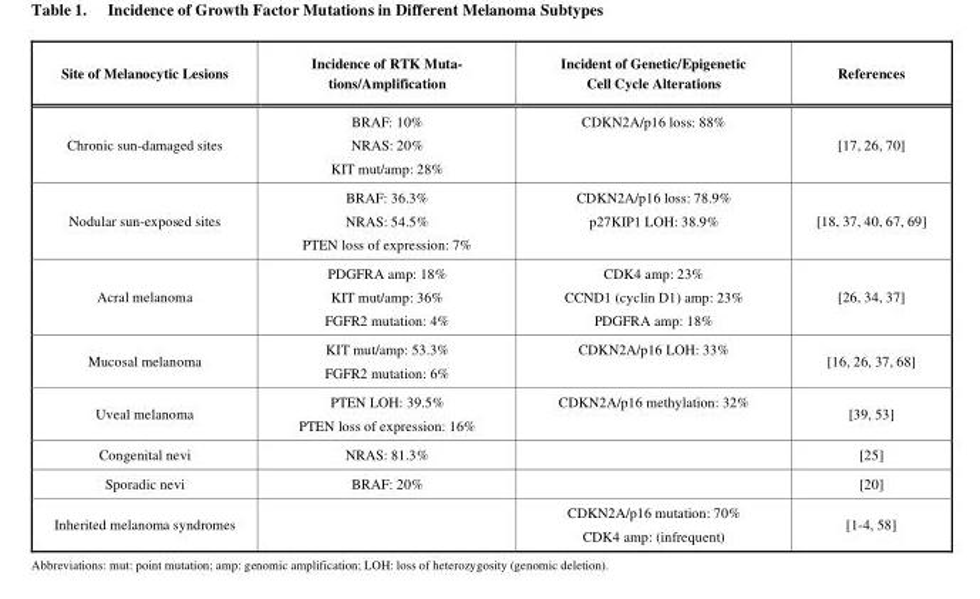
<table><thead><tr><td>Site of Melanocytic Lesions</td><td>Incidence of RTK Muta- tions/Amplification</td><td>Incident of Genetic/Epigenetic Cell Cycle Alterations</td><td>References</td></tr></thead><tbody><tr><td>Chronic sun-damaged sites</td><td>BRAF: 10% NRAS: 20% KIT mut/amp: 28%</td><td>CDKN2A/p16 loss: 88%</td><td>[17, 26, 70]</td></tr><tr><td>Nodular sun-exposed sites</td><td>BRAF: 36.3% NRAS: 54.5% PTEN loss of expression: 7%</td><td>CDKN2A/p16 loss: 78.9% p27KIP1 LOH: 38.9%</td><td>[18, 37, 40, 67, 69]</td></tr><tr><td>Acral melanoma</td><td>PDGFRA amp: 18% KIT mut/amp: 36% FGFR2 mutation: 4%</td><td>CDK4 amp: 23% CCND1 (cyclin D1) amp: 23% PDGFRA amp: 18%</td><td>[26, 34, 37]</td></tr><tr><td>Mucosal melanoma</td><td>KIT mut/amp: 53.3% FGFR2 mutation: 6%</td><td>CDKN2A/p16 LOH: 33%</td><td>[16, 26, 37, 68]</td></tr><tr><td>Uveal melanoma</td><td>PTEN LOH: 39.5% PTEN loss of expression: 16%</td><td>CDKN2A/p16 methylation: 32%</td><td>[39, 53]</td></tr><tr><td>Congenital nevi</td><td>NRAS: 81.3%</td><td></td><td>[25]</td></tr><tr><td>Sporadic nevi</td><td>BRAF: 20%</td><td></td><td>[20]</td></tr><tr><td>Inherited melanoma syndromes</td><td></td><td>CDKN2A/p16 mutation: 70% CDK4 amp: (infrequent)</td><td>[1-4, 58]</td></tr></tbody></table>